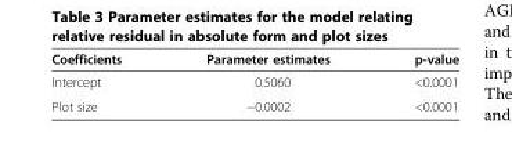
<table><thead><tr><td>Coefficients</td><td>Parameter estimates</td><td>p-value</td></tr></thead><tbody><tr><td>Intercept</td><td>0.5060</td><td>&lt;0.0001</td></tr><tr><td>Plot size</td><td>−0.0002</td><td>&lt;0.0001</td></tr></tbody></table>